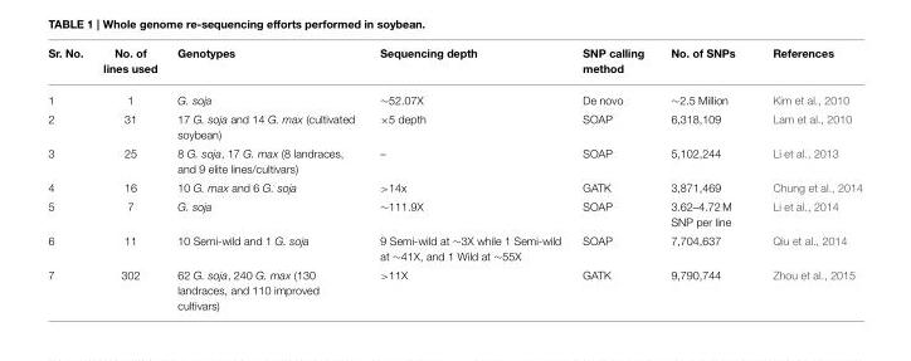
<table><thead><tr><td>Sr. No.</td><td>No. of lines used</td><td>Genotypes</td><td>Sequencing depth</td><td>SNP calling method</td><td>No. of SNPs</td><td>References</td></tr></thead><tbody><tr><td>1</td><td>1</td><td>G. soja</td><td>∼52.07X</td><td>De novo</td><td>∼2.5 Million</td><td>Kim et al., 2010</td></tr><tr><td>2</td><td>31</td><td>17 G. soja and 14 G. max (cultivated soybean)</td><td>×5 depth</td><td>SOAP</td><td>6,318,109</td><td>Lam et al., 2010</td></tr><tr><td>3</td><td>25</td><td>8 G. soja, 17 G. max (8 landraces, and 9 elite lines/cultivars)</td><td>–</td><td>SOAP</td><td>5,102,244</td><td>Li et al., 2013</td></tr><tr><td>4</td><td>16</td><td>10 G. max and 6 G. soja</td><td>&gt;14x</td><td>GATK</td><td>3,871,469</td><td>Chung et al., 2014</td></tr><tr><td>5</td><td>7</td><td>G. soja</td><td>∼111.9X</td><td>SOAP</td><td>3.62–4.72 M SNP per line</td><td>Li et al., 2014</td></tr><tr><td>6</td><td>11</td><td>10 Semi-wild and 1 G. soja</td><td>9 Semi-wild at ∼3X while 1 Semi-wild at ∼41X, and 1 Wild at ∼55X</td><td>SOAP</td><td>7,704,637</td><td>Qiu et al., 2014</td></tr><tr><td>7</td><td>302</td><td>62 G. soja, 240 G. max (130 landraces, and 110 improved cultivars)</td><td>&gt;11X</td><td>GATK</td><td>9,790,744</td><td>Zhou et al., 2015</td></tr></tbody></table>